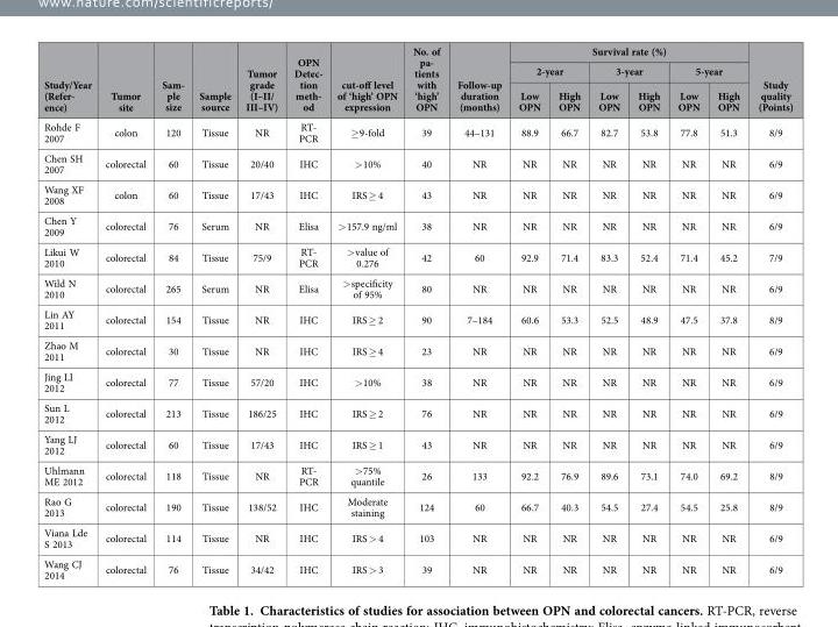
<table><thead><tr><td rowspan="3">Study/Year (Refer- ence)</td><td rowspan="3">Tumor site</td><td rowspan="3">Sam- ple size</td><td rowspan="3">Sample source</td><td rowspan="3">Tumor grade (I–II/ III–IV)</td><td rowspan="3">OPN Detec- tion meth- od</td><td rowspan="3">cut-off level of ‘high’ OPN expression</td><td rowspan="3">No. of pa- tients with ‘high’ OPN</td><td rowspan="3">Follow-up duration (months)</td><td colspan="6">Survival rate (%)</td><td rowspan="3">Study quality (Points)</td></tr><tr><td colspan="2">2-year</td><td colspan="2">3-year</td><td colspan="2">5-year</td></tr><tr><td>Low OPN</td><td>High OPN</td><td>Low OPN</td><td>High OPN</td><td>Low OPN</td><td>High OPN</td></tr></thead><tbody><tr><td>Rohde F 2007</td><td>colon</td><td>120</td><td>Tissue</td><td>NR</td><td>RT- PCR</td><td>≥ 9-fold</td><td>39</td><td>44–131</td><td>88.9</td><td>66.7</td><td>82.7</td><td>53.8</td><td>77.8</td><td>51.3</td><td>8/9</td></tr><tr><td>Chen SH 2007</td><td>colorectal</td><td>60</td><td>Tissue</td><td>20/40</td><td>IHC</td><td>&gt; 10%</td><td>40</td><td>NR</td><td>NR</td><td>NR</td><td>NR</td><td>NR</td><td>NR</td><td>NR</td><td>6/9</td></tr><tr><td>Wang XF 2008</td><td>colon</td><td>60</td><td>Tissue</td><td>17/43</td><td>IHC</td><td>IRS ≥ 4</td><td>43</td><td>NR</td><td>NR</td><td>NR</td><td>NR</td><td>NR</td><td>NR</td><td>NR</td><td>6/9</td></tr><tr><td>Chen Y 2009</td><td>colorectal</td><td>76</td><td>Serum</td><td>NR</td><td>Elisa</td><td>&gt; 157.9 ng/ml</td><td>38</td><td>NR</td><td>NR</td><td>NR</td><td>NR</td><td>NR</td><td>NR</td><td>NR</td><td>6/9</td></tr><tr><td>Likui W 2010</td><td>colorectal</td><td>84</td><td>Tissue</td><td>75/9</td><td>RT- PCR</td><td>&gt; value of 0.276</td><td>42</td><td>60</td><td>92.9</td><td>71.4</td><td>83.3</td><td>52.4</td><td>71.4</td><td>45.2</td><td>7/9</td></tr><tr><td>Wild N 2010</td><td>colorectal</td><td>265</td><td>Serum</td><td>NR</td><td>Elisa</td><td>&gt; specificity of 95%</td><td>80</td><td>NR</td><td>NR</td><td>NR</td><td>NR</td><td>NR</td><td>NR</td><td>NR</td><td>6/9</td></tr><tr><td>Lin AY 2011</td><td>colorectal</td><td>154</td><td>Tissue</td><td>NR</td><td>IHC</td><td>IRS ≥ 2</td><td>90</td><td>7–184</td><td>60.6</td><td>53.3</td><td>52.5</td><td>48.9</td><td>47.5</td><td>37.8</td><td>8/9</td></tr><tr><td>Zhao M 2011</td><td>colorectal</td><td>30</td><td>Tissue</td><td>NR</td><td>IHC</td><td>IRS ≥ 4</td><td>23</td><td>NR</td><td>NR</td><td>NR</td><td>NR</td><td>NR</td><td>NR</td><td>NR</td><td>6/9</td></tr><tr><td>Jing LI 2012</td><td>colorectal</td><td>77</td><td>Tissue</td><td>57/20</td><td>IHC</td><td>&gt; 10%</td><td>38</td><td>NR</td><td>NR</td><td>NR</td><td>NR</td><td>NR</td><td>NR</td><td>NR</td><td>6/9</td></tr><tr><td>Sun L 2012</td><td>colorectal</td><td>213</td><td>Tissue</td><td>186/25</td><td>IHC</td><td>IRS ≥ 2</td><td>76</td><td>NR</td><td>NR</td><td>NR</td><td>NR</td><td>NR</td><td>NR</td><td>NR</td><td>6/9</td></tr><tr><td>Yang LJ 2012</td><td>colorectal</td><td>60</td><td>Tissue</td><td>17/43</td><td>IHC</td><td>IRS ≥ 1</td><td>43</td><td>NR</td><td>NR</td><td>NR</td><td>NR</td><td>NR</td><td>NR</td><td>NR</td><td>6/9</td></tr><tr><td>Uhlmann ME 2012</td><td>colorectal</td><td>118</td><td>Tissue</td><td>NR</td><td>RT- PCR</td><td>&gt; 75% quantile</td><td>26</td><td>133</td><td>92.2</td><td>76.9</td><td>89.6</td><td>73.1</td><td>74.0</td><td>69.2</td><td>8/9</td></tr><tr><td>Rao G 2013</td><td>colorectal</td><td>190</td><td>Tissue</td><td>138/52</td><td>IHC</td><td>Moderate staining</td><td>124</td><td>60</td><td>66.7</td><td>40.3</td><td>54.5</td><td>27.4</td><td>54.5</td><td>25.8</td><td>8/9</td></tr><tr><td>Viana Lde S 2013</td><td>colorectal</td><td>114</td><td>Tissue</td><td>NR</td><td>IHC</td><td>IRS &gt; 4</td><td>103</td><td>NR</td><td>NR</td><td>NR</td><td>NR</td><td>NR</td><td>NR</td><td>NR</td><td>6/9</td></tr><tr><td>Wang CJ 2014</td><td>colorectal</td><td>76</td><td>Tissue</td><td>34/42</td><td>IHC</td><td>IRS &gt; 3</td><td>39</td><td>NR</td><td>NR</td><td>NR</td><td>NR</td><td>NR</td><td>NR</td><td>NR</td><td>6/9</td></tr></tbody></table>